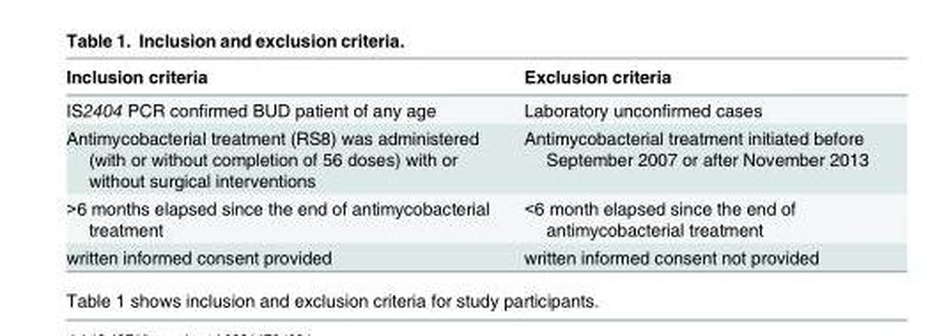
<table><thead><tr><td>Inclusion criteria</td><td>Exclusion criteria</td></tr></thead><tbody><tr><td>IS2404 PCR confirmed BUD patient of any age</td><td>Laboratory unconfirmed cases</td></tr><tr><td>Antimycobacterial treatment (RS8) was administered (with or without completion of 56 doses) with or without surgical interventions</td><td>Antimycobacterial treatment initiated before September 2007 or after November 2013</td></tr><tr><td>&gt;6 months elapsed since the end of antimycobacterial treatment</td><td>&lt;6 month elapsed since the end of antimycobacterial treatment</td></tr><tr><td>written informed consent provided</td><td>written informed consent not provided</td></tr></tbody></table>